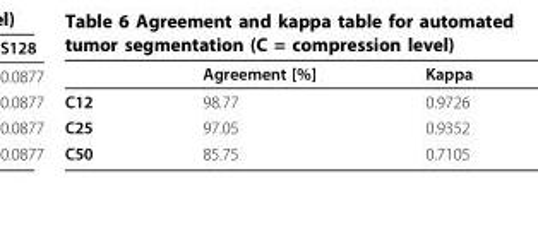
<table><thead><tr><td></td><td>Agreement [%]</td><td>Kappa</td></tr></thead><tbody><tr><td>C12</td><td>98.77</td><td>0.9726</td></tr><tr><td>C25</td><td>97.05</td><td>0.9352</td></tr><tr><td>C50</td><td>85.75</td><td>0.7105</td></tr></tbody></table>